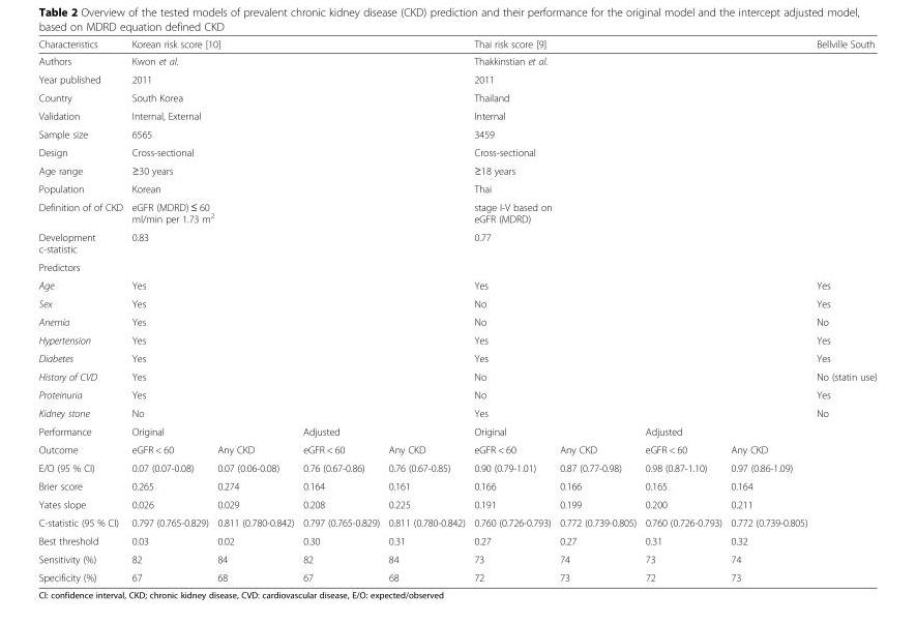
<table><thead><tr><td>Characteristics</td><td colspan="4">Korean risk score [10]</td><td colspan="4">Thai risk score [9]</td><td>Bellville South</td></tr></thead><tbody><tr><td>Authors</td><td colspan="4">Kwon et al.</td><td colspan="4">Thakkinstian et al.</td><td></td></tr><tr><td>Year published</td><td colspan="4">2011</td><td colspan="4">2011</td><td></td></tr><tr><td>Country</td><td colspan="4">South Korea</td><td colspan="4">Thailand</td><td></td></tr><tr><td>Validation</td><td colspan="4">Internal, External</td><td colspan="4">Internal</td><td></td></tr><tr><td>Sample size</td><td colspan="4">6565</td><td colspan="4">3459</td><td></td></tr><tr><td>Design</td><td colspan="4">Cross-sectional</td><td colspan="4">Cross-sectional</td><td></td></tr><tr><td>Age range</td><td colspan="4">≥30 years</td><td colspan="4">≥18 years</td><td></td></tr><tr><td>Population</td><td colspan="4">Korean</td><td colspan="4">Thai</td><td></td></tr><tr><td>Definition of of CKD</td><td colspan="4">eGFR (MDRD) ≤ 60 ml/min per 1.73 m<sup>2</sup></td><td colspan="4">stage I-V based on eGFR (MDRD)</td><td></td></tr><tr><td>Development c-statistic</td><td colspan="4">0.83</td><td colspan="4">0.77</td><td></td></tr><tr><td colspan="10">Predictors</td></tr><tr><td>Age</td><td colspan="4">Yes</td><td colspan="4">Yes</td><td>Yes</td></tr><tr><td>Sex</td><td colspan="4">Yes</td><td colspan="4">No</td><td>Yes</td></tr><tr><td>Anemia</td><td colspan="4">Yes</td><td colspan="4">No</td><td>No</td></tr><tr><td>Hypertension</td><td colspan="4">Yes</td><td colspan="4">Yes</td><td>Yes</td></tr><tr><td>Diabetes</td><td colspan="4">Yes</td><td colspan="4">Yes</td><td>Yes</td></tr><tr><td>History of CVD</td><td colspan="4">Yes</td><td colspan="4">No</td><td>No (statin use)</td></tr><tr><td>Proteinuria</td><td colspan="4">Yes</td><td colspan="4">No</td><td>Yes</td></tr><tr><td>Kidney stone</td><td colspan="4">No</td><td colspan="4">Yes</td><td>No</td></tr><tr><td>Performance</td><td colspan="2">Original</td><td colspan="2">Adjusted</td><td colspan="2">Original</td><td colspan="2">Adjusted</td><td></td></tr><tr><td>Outcome</td><td>eGFR &lt; 60</td><td>Any CKD</td><td>eGFR &lt; 60</td><td>Any CKD</td><td>eGFR &lt; 60</td><td>Any CKD</td><td>eGFR &lt; 60</td><td>Any CKD</td><td></td></tr><tr><td>E/O (95 % CI)</td><td>0.07 (0.07-0.08)</td><td>0.07 (0.06-0.08)</td><td>0.76 (0.67-0.86)</td><td>0.76 (0.67-0.85)</td><td>0.90 (0.79-1.01)</td><td>0.87 (0.77-0.98)</td><td>0.98 (0.87-1.10)</td><td>0.97 (0.86-1.09)</td><td></td></tr><tr><td>Brier score</td><td>0.265</td><td>0.274</td><td>0.164</td><td>0.161</td><td>0.166</td><td>0.166</td><td>0.165</td><td>0.164</td><td></td></tr><tr><td>Yates slope</td><td>0.026</td><td>0.029</td><td>0.208</td><td>0.225</td><td>0.191</td><td>0.199</td><td>0.200</td><td>0.211</td><td></td></tr><tr><td>C-statistic (95 % CI)</td><td>0.797 (0.765-0.829)</td><td>0.811 (0.780-0.842)</td><td>0.797 (0.765-0.829)</td><td>0.811 (0.780-0.842)</td><td>0.760 (0.726-0.793)</td><td>0.772 (0.739-0.805)</td><td>0.760 (0.726-0.793)</td><td>0.772 (0.739-0.805)</td><td></td></tr><tr><td>Best threshold</td><td>0.03</td><td>0.02</td><td>0.30</td><td>0.31</td><td>0.27</td><td>0.27</td><td>0.31</td><td>0.32</td><td></td></tr><tr><td>Sensitivity (%)</td><td>82</td><td>84</td><td>82</td><td>84</td><td>73</td><td>74</td><td>73</td><td>74</td><td></td></tr><tr><td>Specificity (%)</td><td>67</td><td>68</td><td>67</td><td>68</td><td>72</td><td>73</td><td>72</td><td>73</td><td></td></tr></tbody></table>